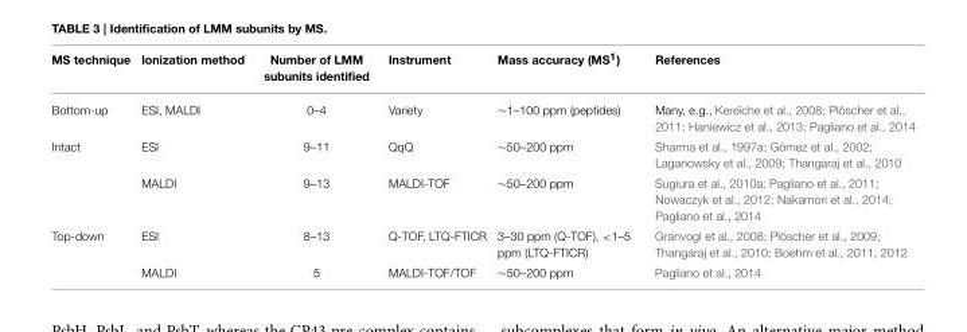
<table><thead><tr><td>MS technique</td><td>Ionization method</td><td>Number of LMM subunits identified</td><td>Instrument</td><td>Mass accuracy (MS<sup>1</sup>)</td><td>References</td></tr></thead><tbody><tr><td>Bottom-up</td><td>ESI, MALDI</td><td>0–4</td><td>Variety</td><td>∼1–100 ppm (peptides)</td><td>Many, e.g., Kereïche et al., 2008; Plöscher et al., 2011; Haniewicz et al., 2013; Pagliano et al., 2014</td></tr><tr><td rowspan="2">Intact</td><td>ESI</td><td>9–11</td><td>QqQ</td><td>∼50–200 ppm</td><td>Sharma et al., 1997a; Gómez et al., 2002; Laganowsky et al., 2009; Thangaraj et al., 2010</td></tr><tr><td>MALDI</td><td>9–13</td><td>MALDI-TOF</td><td>∼50–200 ppm</td><td>Sugiura et al., 2010a; Pagliano et al., 2011; Nowaczyk et al., 2012; Nakamori et al., 2014; Pagliano et al., 2014</td></tr><tr><td rowspan="2">Top-down</td><td>ESI</td><td>8–13</td><td>Q-TOF, LTQ-FTICR</td><td>3–30 ppm (Q-TOF), &lt;1–5 ppm (LTQ-FTICR)</td><td>Granvogl et al., 2008; Plöscher et al., 2009; Thangaraj et al., 2010; Boehm et al., 2011, 2012</td></tr><tr><td>MALDI</td><td>5</td><td>MALDI-TOF/TOF</td><td>∼50–200 ppm</td><td>Pagliano et al., 2014</td></tr></tbody></table>